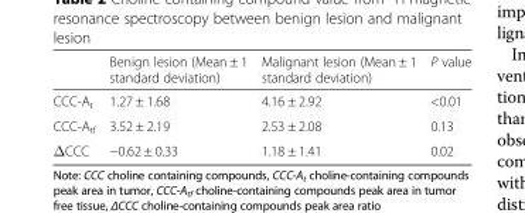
<table><thead><tr><td></td><td>Benign lesion (Mean ± 1 standard deviation)</td><td>Malignant lesion (Mean ± 1 standard deviation)</td><td>P value</td></tr></thead><tbody><tr><td>CCC-A<sub>t</sub></td><td>1.27 ± 1.68</td><td>4.16 ± 2.92</td><td>&lt;0.01</td></tr><tr><td>CCC-A<sub>tf</sub></td><td>3.52 ± 2.19</td><td>2.53 ± 2.08</td><td>0.13</td></tr><tr><td>ΔCCC</td><td>−0.62 ± 0.33</td><td>1.18 ± 1.41</td><td>0.02</td></tr></tbody></table>